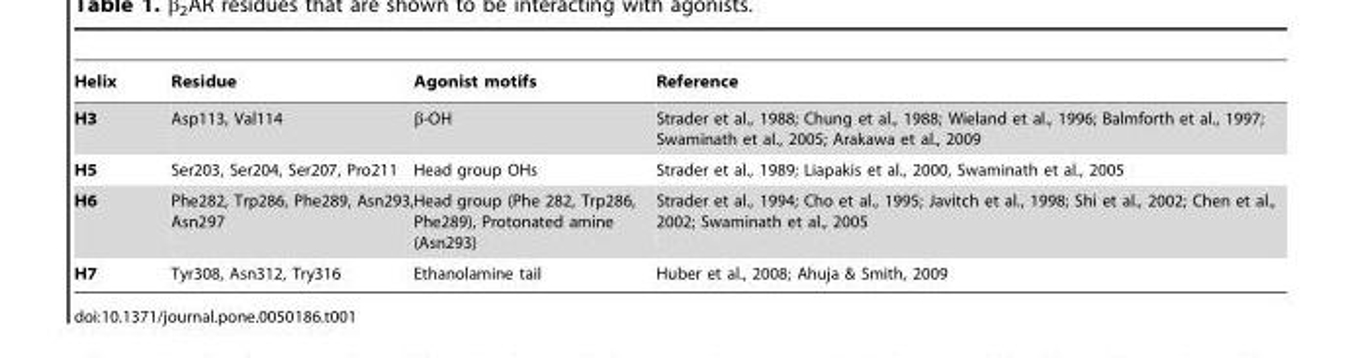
<table><thead><tr><td>Helix</td><td>Residue</td><td>Agonist motifs</td><td>Reference</td></tr></thead><tbody><tr><td>H3</td><td>Asp113, Val114</td><td>β-OH</td><td>Strader et al., 1988; Chung et al., 1988; Wieland et al., 1996; Balmforth et al., 1997; Swaminath et al., 2005; Arakawa et al., 2009</td></tr><tr><td>H5</td><td>Ser203, Ser204, Ser207, Pro211</td><td>Head group OHs</td><td>Strader et al., 1989; Liapakis et al., 2000, Swaminath et al., 2005</td></tr><tr><td>H6</td><td>Phe282, Trp286, Phe289, Asn293, Asn297</td><td>Head group (Phe 282, Trp286, Phe289), Protonated amine (Asn293)</td><td>Strader et al., 1994; Cho et al., 1995; Javitch et al., 1998; Shi et al., 2002; Chen et al., 2002; Swaminath et al., 2005</td></tr><tr><td>H7</td><td>Tyr308, Asn312, Try316</td><td>Ethanolamine tail</td><td>Huber et al., 2008; Ahuja &amp; Smith, 2009</td></tr></tbody></table>